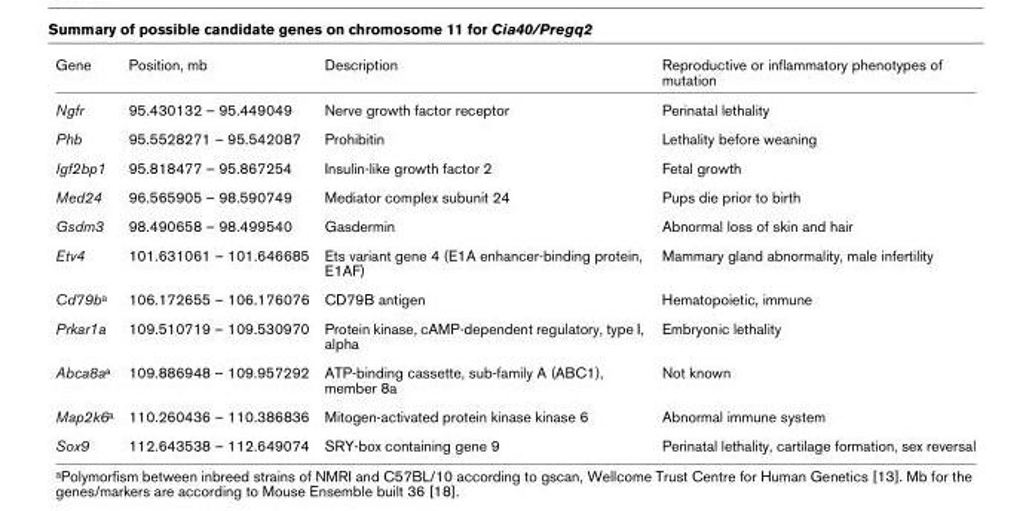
<table><thead><tr><td>Gene</td><td>Position, mb</td><td>Description</td><td>Reproductive or inflammatory phenotypes of mutation</td></tr></thead><tbody><tr><td>Ngfr</td><td>95.430132 – 95.449049</td><td>Nerve growth factor receptor</td><td>Perinatal lethality</td></tr><tr><td>Phb</td><td>95.5528271 – 95.542087</td><td>Prohibitin</td><td>Lethality before weaning</td></tr><tr><td>Igf2bp1</td><td>95.818477 – 95.867254</td><td>Insulin-like growth factor 2</td><td>Fetal growth</td></tr><tr><td>Med24</td><td>96.565905 – 98.590749</td><td>Mediator complex subunit 24</td><td>Pups die prior to birth</td></tr><tr><td>Gsdm3</td><td>98.490658 – 98.499540</td><td>Gasdermin</td><td>Abnormal loss of skin and hair</td></tr><tr><td>Etv4</td><td>101.631061 – 101.646685</td><td>Ets variant gene 4 (E1A enhancer-binding protein, E1AF)</td><td>Mammary gland abnormality, male infertility</td></tr><tr><td>Cd79b<sup>a</sup></td><td>106.172655 – 106.176076</td><td>CD79B antigen</td><td>Hematopoietic, immune</td></tr><tr><td>Prkar1a</td><td>109.510719 – 109.530970</td><td>Protein kinase, cAMP-dependent regulatory, type I, alpha</td><td>Embryonic lethality</td></tr><tr><td>Abca8a<sup>a</sup></td><td>109.886948 – 109.957292</td><td>ATP-binding cassette, sub-family A (ABC1), member 8a</td><td>Not known</td></tr><tr><td>Map2k6<sup>a</sup></td><td>110.260436 – 110.386836</td><td>Mitogen-activated protein kinase kinase 6</td><td>Abnormal immune system</td></tr><tr><td>Sox9</td><td>112.643538 – 112.649074</td><td>SRY-box containing gene 9</td><td>Perinatal lethality, cartilage formation, sex reversal</td></tr></tbody></table>